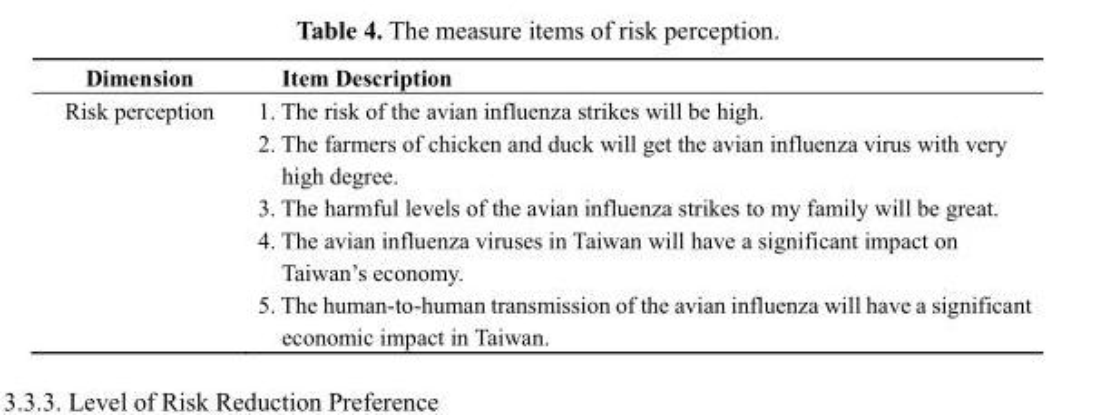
<table><thead><tr><td rowspan="2">Dimension Risk perception</td><td colspan="2">Item Description</td></tr><tr><td>1.</td><td>The risk of the avian influenza strikes will be high.</td></tr></thead><tbody><tr><td></td><td>2.</td><td>The farmers of chicken and duck will get the avian influenza virus with very high degree.</td></tr><tr><td></td><td>3.</td><td>The harmful levels of the avian influenza strikes to my family will be great.</td></tr><tr><td></td><td>4.</td><td>The avian influenza viruses in Taiwan will have a significant impact on Taiwan’s economy.</td></tr><tr><td></td><td>5.</td><td>The human-to-human transmission of the avian influenza will have a significant economic impact in Taiwan.</td></tr></tbody></table>